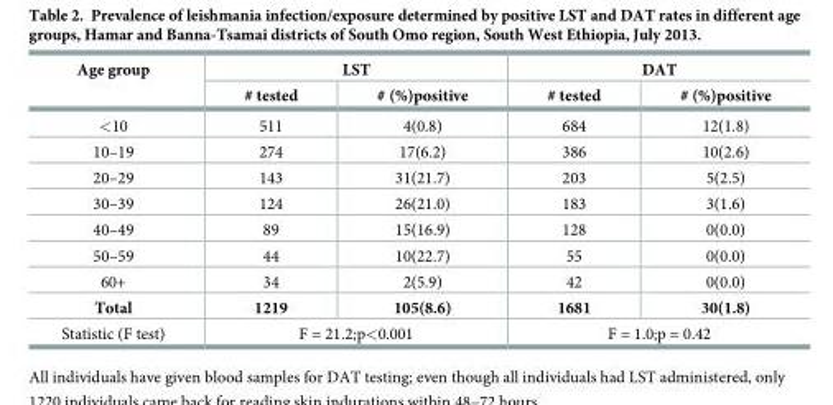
<table><thead><tr><td rowspan="2">Age group</td><td colspan="2">LST</td><td colspan="2">DAT</td></tr><tr><td># tested</td><td># (%)positive</td><td># tested</td><td># (%)positive</td></tr></thead><tbody><tr><td>&lt;10</td><td>511</td><td>4(0.8)</td><td>684</td><td>12(1.8)</td></tr><tr><td>10–19</td><td>274</td><td>17(6.2)</td><td>386</td><td>10(2.6)</td></tr><tr><td>20–29</td><td>143</td><td>31(21.7)</td><td>203</td><td>5(2.5)</td></tr><tr><td>30–39</td><td>124</td><td>26(21.0)</td><td>183</td><td>3(1.6)</td></tr><tr><td>40–49</td><td>89</td><td>15(16.9)</td><td>128</td><td>0(0.0)</td></tr><tr><td>50–59</td><td>44</td><td>10(22.7)</td><td>55</td><td>0(0.0)</td></tr><tr><td>60+</td><td>34</td><td>2(5.9)</td><td>42</td><td>0(0.0)</td></tr><tr><td>Total</td><td>1219</td><td>105(8.6)</td><td>1681</td><td>30(1.8)</td></tr><tr><td>Statistic (F test)</td><td colspan="2">F = 21.2;p&lt;0.001</td><td colspan="2">F = 1.0;p = 0.42</td></tr></tbody></table>